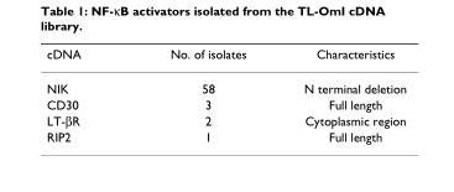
<table><thead><tr><td>cDNA</td><td>No. of isolates</td><td>Characteristics</td></tr></thead><tbody><tr><td>NIK</td><td>58</td><td>N terminal deletion</td></tr><tr><td>CD30</td><td>3</td><td>Full length</td></tr><tr><td>LT-βR</td><td>2</td><td>Cytoplasmic region</td></tr><tr><td>RIP2</td><td>1</td><td>Full length</td></tr></tbody></table>